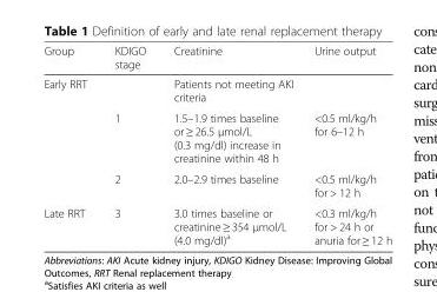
<table><thead><tr><td>Group</td><td>KDIGO stage</td><td>Creatinine</td><td>Urine output</td></tr></thead><tbody><tr><td rowspan="3">Early RRT</td><td></td><td colspan="2">Patients not meeting AKI criteria</td></tr><tr><td>1</td><td>1.5–1.9 times baseline or ≥ 26.5 μmol/L (0.3 mg/dl) increase in creatinine within 48 h</td><td>&lt;0.5 ml/kg/h for 6–12 h</td></tr><tr><td>2</td><td>2.0–2.9 times baseline</td><td>&lt;0.5 ml/kg/h for &gt; 12 h</td></tr><tr><td>Late RRT</td><td>3</td><td>3.0 times baseline or creatinine ≥ 354 μmol/L (4.0 mg/dl)<sup>a</sup></td><td>&lt;0.3 ml/kg/h for &gt; 24 h or anuria for ≥ 12 h</td></tr></tbody></table>